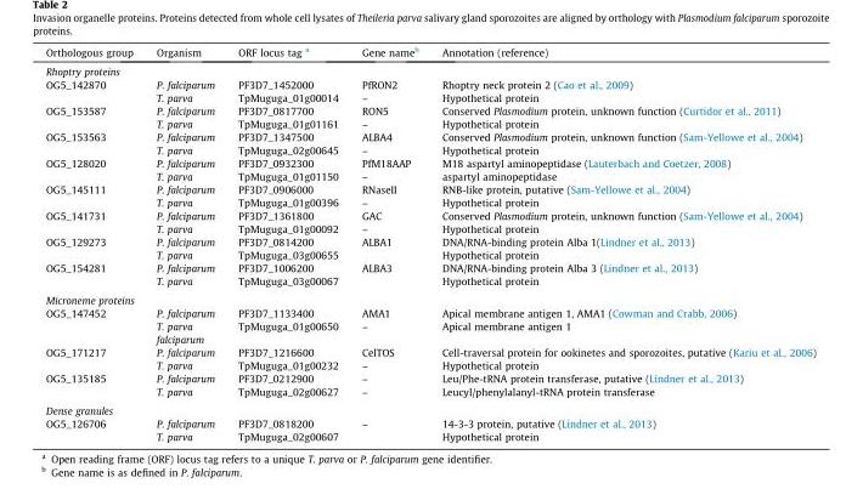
<table><thead><tr><td>Orthologous group</td><td>Organism</td><td>ORF locus tag a</td><td>Gene name<sup>b</sup></td><td>Annotation (reference)</td></tr></thead><tbody><tr><td colspan="5">Rhoptry proteins</td></tr><tr><td rowspan="2">OG5_142870</td><td>P. falciparum</td><td>PF3D7_1452000</td><td>PfRON2</td><td>Rhoptry neck protein 2 (Cao et al., 2009)</td></tr><tr><td>T. parva</td><td>TpMuguga_01g00014</td><td>–</td><td>Hypothetical protein</td></tr><tr><td rowspan="2">OG5_153587</td><td>P. falciparum</td><td>PF3D7_0817700</td><td>RON5</td><td>Conserved Plasmodium protein, unknown function (Curtidor et al., 2011)</td></tr><tr><td>T. parva</td><td>TpMuguga_01g01161</td><td>–</td><td>Hypothetical protein</td></tr><tr><td rowspan="2">OG5_153563</td><td>P. falciparum</td><td>PF3D7_1347500</td><td>ALBA4</td><td>Conserved Plasmodium protein, unknown function (Sam-Yellowe et al., 2004)</td></tr><tr><td>T. parva</td><td>TpMuguga_02g00645</td><td>–</td><td>Hypothetical protein</td></tr><tr><td rowspan="2">OG5_128020</td><td>P. falciparum</td><td>PF3D7_0932300</td><td>PfM18AAP</td><td>M18 aspartyl aminopeptidase (Lauterbach and Coetzer, 2008)</td></tr><tr><td>T. parva</td><td>TpMuguga_01g01150</td><td>–</td><td>aspartyl aminopeptidase</td></tr><tr><td rowspan="2">OG5_145111</td><td>P. falciparum</td><td>PF3D7_0906000</td><td>RNaseII</td><td>RNB-like protein, putative (Sam-Yellowe et al., 2004)</td></tr><tr><td>T. parva</td><td>TpMuguga_01g00396</td><td>–</td><td>Hypothetical protein</td></tr><tr><td rowspan="2">OG5_141731</td><td>P. falciparum</td><td>PF3D7_1361800</td><td>GAC</td><td>Conserved Plasmodium protein, unknown function (Sam-Yellowe et al., 2004)</td></tr><tr><td>T. parva</td><td>TpMuguga_01g00092</td><td>–</td><td>Hypothetical protein</td></tr><tr><td rowspan="2">OG5_129273</td><td>P. falciparum</td><td>PF3D7_0814200</td><td>ALBA1</td><td>DNA/RNA-binding protein Alba 1(Lindner et al., 2013)</td></tr><tr><td>T. parva</td><td>TpMuguga_03g00655</td><td></td><td>Hypothetical protein</td></tr><tr><td rowspan="2">OG5_154281</td><td>P. falciparum</td><td>PF3D7_1006200</td><td>ALBA3</td><td>DNA/RNA-binding protein Alba 3 (Lindner et al., 2013)</td></tr><tr><td>T. parva</td><td>TpMuguga_03g00067</td><td></td><td>Hypothetical protein</td></tr><tr><td colspan="5">Microneme proteins</td></tr><tr><td rowspan="3">OG5_147452</td><td>P. falciparum</td><td>PF3D7_1133400</td><td>AMA1</td><td>Apical membrane antigen 1, AMA1 (Cowman and Crabb, 2006)</td></tr><tr><td>T. parva</td><td>TpMuguga_01g00650</td><td>–</td><td>Apical membrane antigen 1</td></tr><tr><td>falciparum</td><td></td><td></td><td></td></tr><tr><td rowspan="2">OG5_171217</td><td>P. falciparum</td><td>PF3D7_1216600</td><td>CelTOS</td><td>Cell-traversal protein for ookinetes and sporozoites, putative (Kariu et al., 2006)</td></tr><tr><td>T. parva</td><td>TpMuguga_01g00232</td><td>–</td><td>Hypothetical protein</td></tr><tr><td rowspan="2">OG5_135185</td><td>P. falciparum</td><td>PF3D7_0212900</td><td>–</td><td>Leu/Phe-tRNA protein transferase, putative (Lindner et al., 2013)</td></tr><tr><td>T. parva</td><td>TpMuguga_02g00627</td><td>–</td><td>Leucyl/phenylalanyl-tRNA protein transferase</td></tr><tr><td colspan="5">Dense granules</td></tr><tr><td rowspan="2">OG5_126706</td><td>P. falciparum</td><td>PF3D7_0818200</td><td>–</td><td>14-3-3 protein, putative (Lindner et al., 2013)</td></tr><tr><td>T. parva</td><td>TpMuguga_02g00607</td><td></td><td>Hypothetical protein</td></tr></tbody></table>